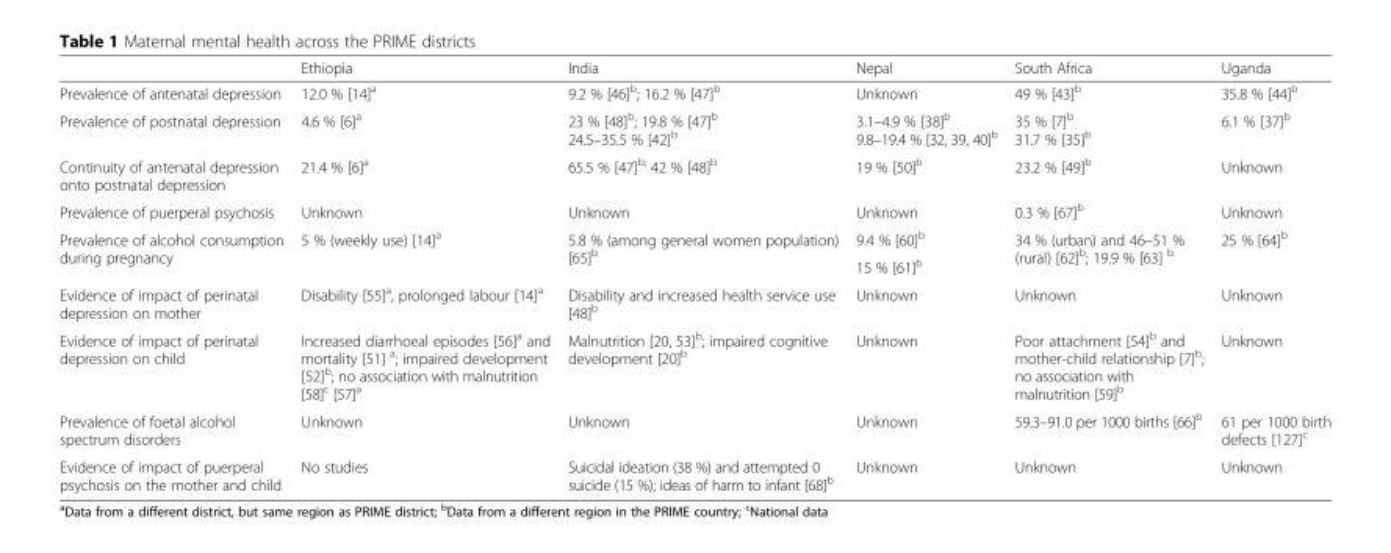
<table><thead><tr><td></td><td>Ethiopia</td><td>India</td><td>Nepal</td><td>South Africa</td><td>Uganda</td></tr></thead><tbody><tr><td>Prevalence of antenatal depression</td><td>12.0 % [14]<sup>a</sup></td><td>9.2 % [46]<sup>b</sup>; 16.2 % [47]<sup>b</sup></td><td>Unknown</td><td>49 % [43]<sup>b</sup></td><td>35.8 % [44]<sup>b</sup></td></tr><tr><td>Prevalence of postnatal depression</td><td>4.6 % [6]<sup>a</sup></td><td>23 % [48]<sup>b</sup>; 19.8 % [47]<sup>b</sup> 24.5–35.5 % [42]<sup>b</sup></td><td>3.1–4.9 % [38]<sup>b</sup> 9.8–19.4 % [32, 39, 40]<sup>b</sup></td><td>35 % [7]<sup>b</sup> 31.7 % [35]<sup>b</sup></td><td>6.1 % [37]<sup>b</sup></td></tr><tr><td>Continuity of antenatal depression onto postnatal depression</td><td>21.4 % [6]<sup>a</sup></td><td>65.5 % [47]<sup>b;</sup> 42 % [48]<sup>b</sup></td><td>19 % [50]<sup>b</sup></td><td>23.2 % [49]<sup>b</sup></td><td>Unknown</td></tr><tr><td>Prevalence of puerperal psychosis</td><td>Unknown</td><td>Unknown</td><td>Unknown</td><td>0.3 % [67]<sup>b</sup></td><td>Unknown</td></tr><tr><td rowspan="2">Prevalence of alcohol consumption during pregnancy</td><td rowspan="2">5 % (weekly use) [14]<sup>a</sup></td><td rowspan="2">5.8 % (among general women population) [65]<sup>b</sup></td><td>9.4 % [60]<sup>b</sup></td><td rowspan="2">34 % (urban) and 46–51 % (rural) [62]<sup>b</sup>; 19.9 % [63] <sup>b</sup></td><td rowspan="2">25 % [64]<sup>b</sup></td></tr><tr><td>15 % [61]<sup>b</sup></td></tr><tr><td>Evidence of impact of perinatal depression on mother</td><td>Disability [55]<sup>a</sup>, prolonged labour [14]<sup>a</sup></td><td>Disability and increased health service use [48]<sup>b</sup></td><td>Unknown</td><td>Unknown</td><td>Unknown</td></tr><tr><td>Evidence of impact of perinatal depression on child</td><td>Increased diarrhoeal episodes [56]<sup>a</sup> and mortality [51] <sup>a</sup>; impaired development [52]<sup>b</sup>; no association with malnutrition [58]<sup>c</sup> [57]<sup>a</sup></td><td>Malnutrition [20, 53]<sup>b</sup>; impaired cognitive development [20]<sup>b</sup></td><td>Unknown</td><td>Poor attachment [54]<sup>b</sup> and mother-child relationship [7]<sup>b</sup>; no association with malnutrition [59]<sup>b</sup></td><td>Unknown</td></tr><tr><td>Prevalence of foetal alcohol spectrum disorders</td><td>Unknown</td><td>Unknown</td><td>Unknown</td><td>59.3–91.0 per 1000 births [66]<sup>b</sup></td><td>61 per 1000 birth defects [127]<sup>c</sup></td></tr><tr><td>Evidence of impact of puerperal psychosis on the mother and child</td><td>No studies</td><td>Suicidal ideation (38 %) and attempted 0 suicide (15 %); ideas of harm to infant [68]<sup>b</sup></td><td>Unknown</td><td>Unknown</td><td>Unknown</td></tr></tbody></table>